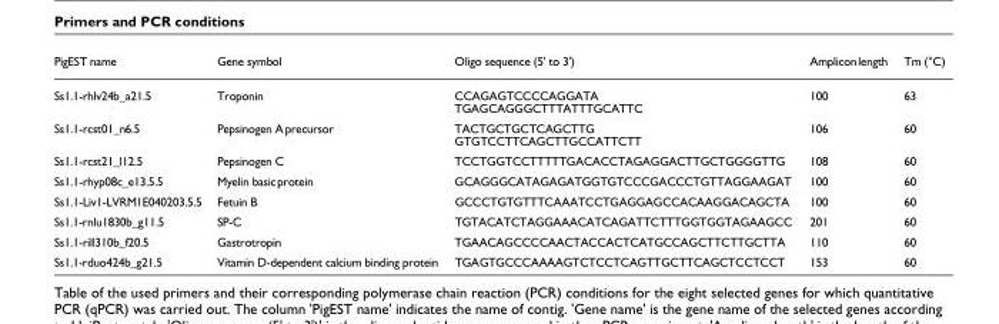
<table><thead><tr><td>PigEST name</td><td>Gene symbol</td><td>Oligo sequence (5&#x27; to 3&#x27;)</td><td>Amplicon length</td><td>Tm (°C)</td></tr></thead><tbody><tr><td>Ss1.1-rhlv24b_a21.5</td><td>Troponin</td><td>CCAGAGTCCCCAGGATA TGAGCAGGGCTTTATTTGCATTC</td><td>100</td><td>63</td></tr><tr><td>Ss1.1-rcst01_n6.5</td><td>Pepsinogen A precursor</td><td>TACTGCTGCTCAGCTTG GTGTCCTTCAGCTTGCCATTCTT</td><td>106</td><td>60</td></tr><tr><td>Ss1.1-rcst21_l12.5</td><td>Pepsinogen C</td><td>TCCTGGTCCTTTTTGACACCTAGAGGACTTGCTGGGGTTG</td><td>108</td><td>60</td></tr><tr><td>Ss1.1-rhyp08c_e13.5.5</td><td>Myelin basic protein</td><td>GCAGGGCATAGAGATGGTGTCCCGACCCTGTTAGGAAGAT</td><td>100</td><td>60</td></tr><tr><td>Ss1.1-Liv1-LVRM1E040203.5.5</td><td>Fetuin B</td><td>GCCCTGTGTTTCAAATCCTGAGGAGCCACAAGGACAGCTA</td><td>100</td><td>60</td></tr><tr><td>Ss1.1-rnlu1830b_g11.5</td><td>SP-C</td><td>TGTACATCTAGGAAACATCAGATTCTTTGGTGGTAGAAGCC</td><td>201</td><td>60</td></tr><tr><td>Ss1.1-rill310b_f20.5</td><td>Gastrotropin</td><td>TGAACAGCCCCAACTACCACTCATGCCAGCTTCTTGCTTA</td><td>110</td><td>60</td></tr><tr><td>Ss1.1-rduo424b_g21.5</td><td>Vitamin D-dependent calcium binding protein</td><td>TGAGTGCCCAAAAGTCTCCTCAGTTGCTTCAGCTCCTCCT</td><td>153</td><td>60</td></tr></tbody></table>